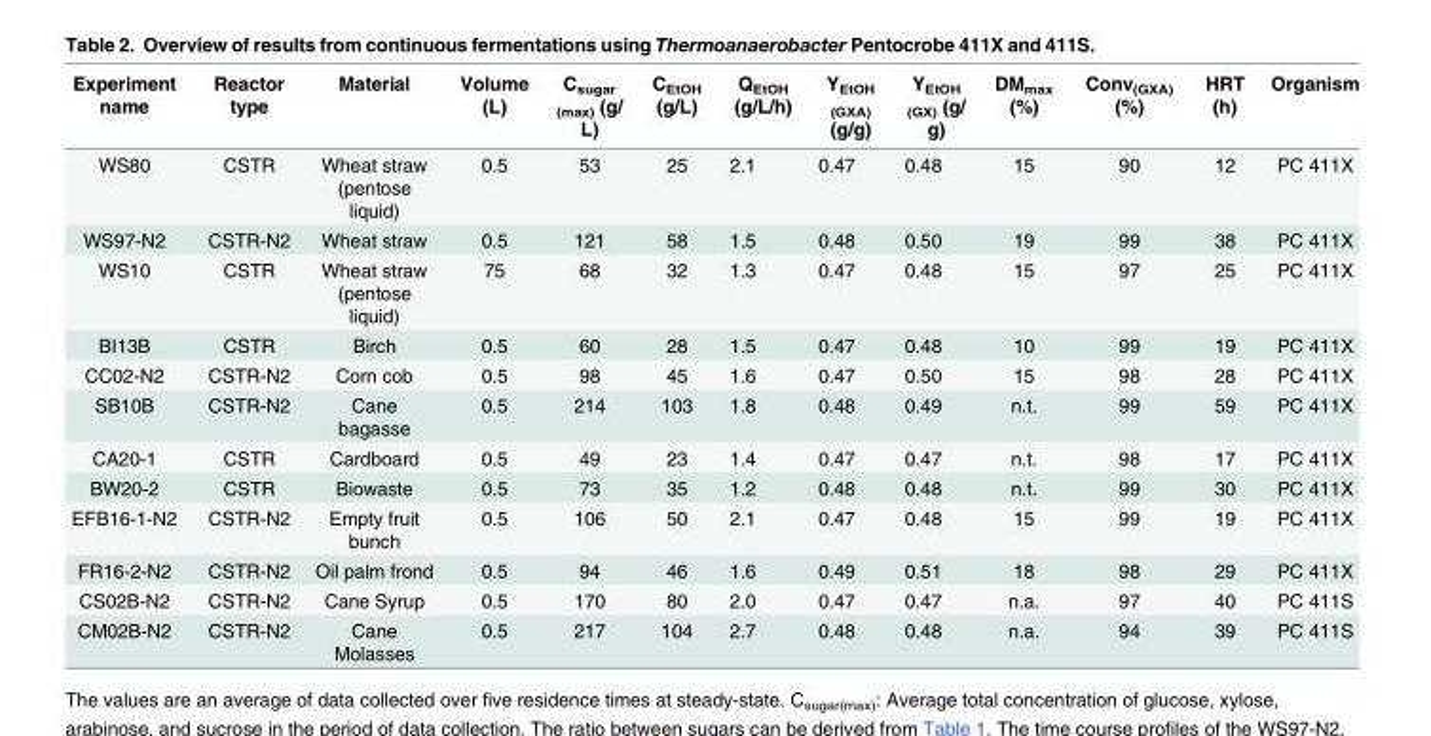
<table><thead><tr><td>Experiment name</td><td>Reactor type</td><td>Material</td><td>Volume (L)</td><td>C<sub>sugar (max)</sub> (g/ L)</td><td>C<sub>EtOH</sub> (g/L)</td><td>Q<sub>EtOH</sub> (g/L/h)</td><td>Y<sub>EtOH (GXA)</sub> (g/g)</td><td>Y<sub>EtOH (GX)</sub> (g/ g)</td><td>DM<sub>max</sub> (%)</td><td>Conv<sub>(GXA)</sub> (%)</td><td>HRT (h)</td><td>Organism</td></tr></thead><tbody><tr><td>WS80</td><td>CSTR</td><td>Wheat straw (pentose liquid)</td><td>0.5</td><td>53</td><td>25</td><td>2.1</td><td>0.47</td><td>0.48</td><td>15</td><td>90</td><td>12</td><td>PC 411X</td></tr><tr><td>WS97-N2</td><td>CSTR-N2</td><td>Wheat straw</td><td>0.5</td><td>121</td><td>58</td><td>1.5</td><td>0.48</td><td>0.50</td><td>19</td><td>99</td><td>38</td><td>PC 411X</td></tr><tr><td>WS10</td><td>CSTR</td><td>Wheat straw (pentose liquid)</td><td>75</td><td>68</td><td>32</td><td>1.3</td><td>0.47</td><td>0.48</td><td>15</td><td>97</td><td>25</td><td>PC 411X</td></tr><tr><td>BI13B</td><td>CSTR</td><td>Birch</td><td>0.5</td><td>60</td><td>28</td><td>1.5</td><td>0.47</td><td>0.48</td><td>10</td><td>99</td><td>19</td><td>PC 411X</td></tr><tr><td>CC02-N2</td><td>CSTR-N2</td><td>Corn cob</td><td>0.5</td><td>98</td><td>45</td><td>1.6</td><td>0.47</td><td>0.50</td><td>15</td><td>98</td><td>28</td><td>PC 411X</td></tr><tr><td>SB10B</td><td>CSTR-N2</td><td>Cane bagasse</td><td>0.5</td><td>214</td><td>103</td><td>1.8</td><td>0.48</td><td>0.49</td><td>n.t.</td><td>99</td><td>59</td><td>PC 411X</td></tr><tr><td>CA20-1</td><td>CSTR</td><td>Cardboard</td><td>0.5</td><td>49</td><td>23</td><td>1.4</td><td>0.47</td><td>0.47</td><td>n.t.</td><td>98</td><td>17</td><td>PC 411X</td></tr><tr><td>BW20-2</td><td>CSTR</td><td>Biowaste</td><td>0.5</td><td>73</td><td>35</td><td>1.2</td><td>0.48</td><td>0.48</td><td>n.t.</td><td>99</td><td>30</td><td>PC 411X</td></tr><tr><td>EFB16-1-N2</td><td>CSTR-N2</td><td>Empty fruit bunch</td><td>0.5</td><td>106</td><td>50</td><td>2.1</td><td>0.47</td><td>0.48</td><td>15</td><td>99</td><td>19</td><td>PC 411X</td></tr><tr><td>FR16-2-N2</td><td>CSTR-N2</td><td>Oil palm frond</td><td>0.5</td><td>94</td><td>46</td><td>1.6</td><td>0.49</td><td>0.51</td><td>18</td><td>98</td><td>29</td><td>PC 411X</td></tr><tr><td>CS02B-N2</td><td>CSTR-N2</td><td>Cane Syrup</td><td>0.5</td><td>170</td><td>80</td><td>2.0</td><td>0.47</td><td>0.47</td><td>n.a.</td><td>97</td><td>40</td><td>PC 411S</td></tr><tr><td>CM02B-N2</td><td>CSTR-N2</td><td>Cane Molasses</td><td>0.5</td><td>217</td><td>104</td><td>2.7</td><td>0.48</td><td>0.48</td><td>n.a.</td><td>94</td><td>39</td><td>PC 411S</td></tr></tbody></table>